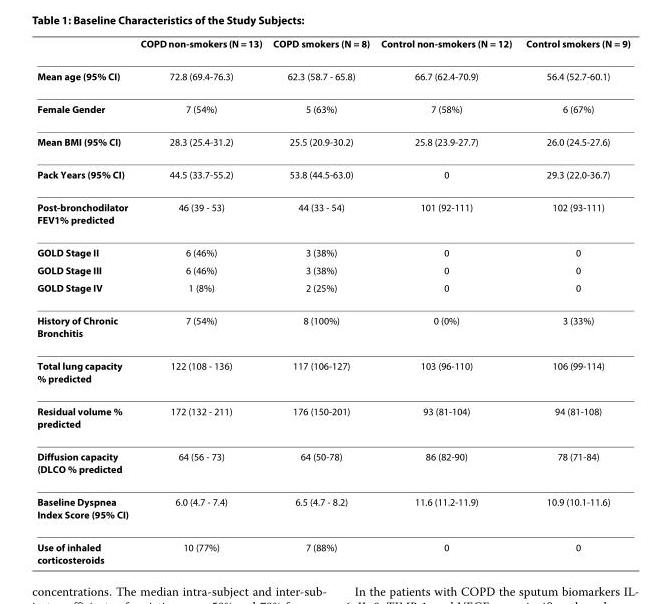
<table><thead><tr><td></td><td>COPD non-smokers (N = 13)</td><td>COPD smokers (N = 8)</td><td>Control non-smokers (N = 12)</td><td>Control smokers (N = 9)</td></tr></thead><tbody><tr><td>Mean age (95% CI)</td><td>72.8 (69.4-76.3)</td><td>62.3 (58.7 - 65.8)</td><td>66.7 (62.4-70.9)</td><td>56.4 (52.7-60.1)</td></tr><tr><td>Female Gender</td><td>7 (54%)</td><td>5 (63%)</td><td>7 (58%)</td><td>6 (67%)</td></tr><tr><td>Mean BMI (95% CI)</td><td>28.3 (25.4-31.2)</td><td>25.5 (20.9-30.2)</td><td>25.8 (23.9-27.7)</td><td>26.0 (24.5-27.6)</td></tr><tr><td>Pack Years (95% CI)</td><td>44.5 (33.7-55.2)</td><td>53.8 (44.5-63.0)</td><td>0</td><td>29.3 (22.0-36.7)</td></tr><tr><td>Post-bronchodilator FEV1% predicted</td><td>46 (39 - 53)</td><td>44 (33 - 54)</td><td>101 (92-111)</td><td>102 (93-111)</td></tr><tr><td>GOLD Stage II</td><td>6 (46%)</td><td>3 (38%)</td><td>0</td><td>0</td></tr><tr><td>GOLD Stage III</td><td>6 (46%)</td><td>3 (38%)</td><td>0</td><td>0</td></tr><tr><td>GOLD Stage IV</td><td>1 (8%)</td><td>2 (25%)</td><td>0</td><td>0</td></tr><tr><td>History of Chronic Bronchitis</td><td>7 (54%)</td><td>8 (100%)</td><td>0 (0%)</td><td>3 (33%)</td></tr><tr><td>Total lung capacity % predicted</td><td>122 (108 - 136)</td><td>117 (106-127)</td><td>103 (96-110)</td><td>106 (99-114)</td></tr><tr><td>Residual volume % predicted</td><td>172 (132 - 211)</td><td>176 (150-201)</td><td>93 (81-104)</td><td>94 (81-108)</td></tr><tr><td>Diffusion capacity (DLCO % predicted</td><td>64 (56 - 73)</td><td>64 (50-78)</td><td>86 (82-90)</td><td>78 (71-84)</td></tr><tr><td>Baseline Dyspnea Index Score (95% CI)</td><td>6.0 (4.7 - 7.4)</td><td>6.5 (4.7 - 8.2)</td><td>11.6 (11.2-11.9)</td><td>10.9 (10.1-11.6)</td></tr><tr><td>Use of inhaled corticosteroids</td><td>10 (77%)</td><td>7 (88%)</td><td>0</td><td>0</td></tr></tbody></table>